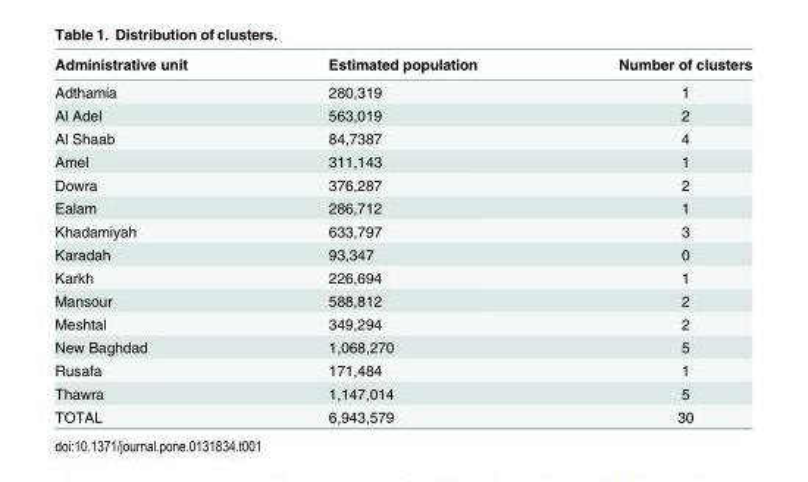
<table><thead><tr><td>Administrative unit</td><td>Estimated population</td><td>Number of clusters</td></tr></thead><tbody><tr><td>Adthamia</td><td>280,319</td><td>1</td></tr><tr><td>Al Adel</td><td>563,019</td><td>2</td></tr><tr><td>Al Shaab</td><td>84,7387</td><td>4</td></tr><tr><td>Amel</td><td>311,143</td><td>1</td></tr><tr><td>Dowra</td><td>376,287</td><td>2</td></tr><tr><td>Ealam</td><td>286,712</td><td>1</td></tr><tr><td>Khadamiyah</td><td>633,797</td><td>3</td></tr><tr><td>Karadah</td><td>93,347</td><td>0</td></tr><tr><td>Karkh</td><td>226,694</td><td>1</td></tr><tr><td>Mansour</td><td>588,812</td><td>2</td></tr><tr><td>Meshtal</td><td>349,294</td><td>2</td></tr><tr><td>New Baghdad</td><td>1,068,270</td><td>5</td></tr><tr><td>Rusafa</td><td>171,484</td><td>1</td></tr><tr><td>Thawra</td><td>1,147,014</td><td>5</td></tr><tr><td>TOTAL</td><td>6,943,579</td><td>30</td></tr></tbody></table>